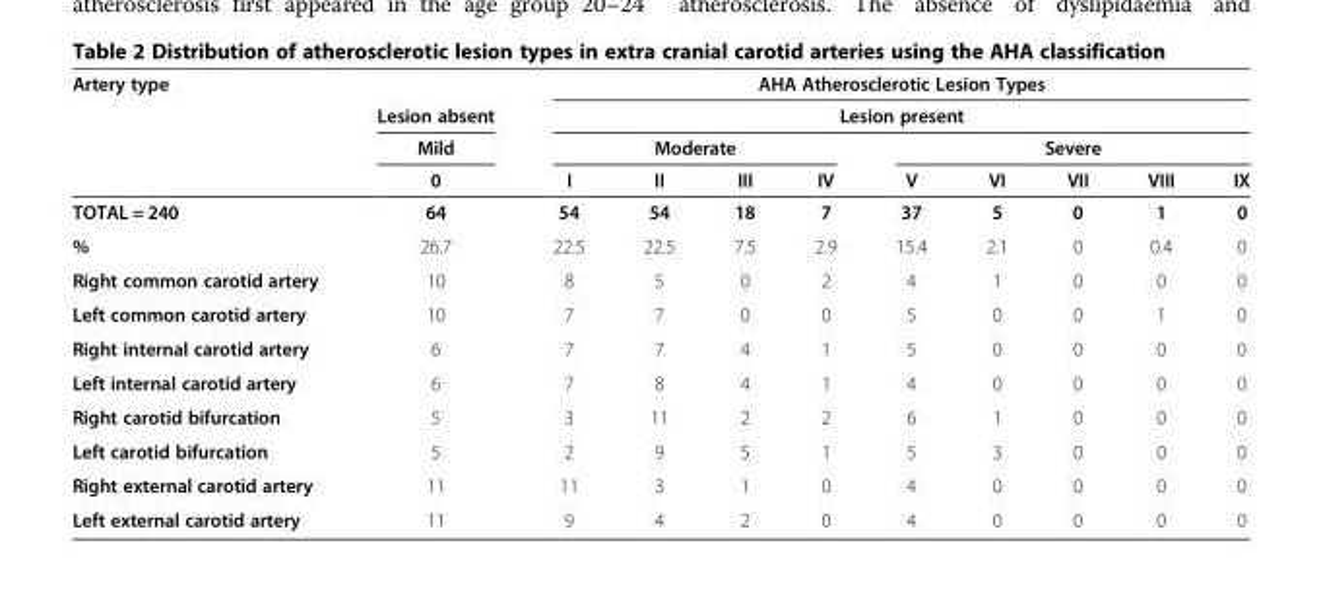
<table><thead><tr><td rowspan="4">Artery type</td><td rowspan="4">Lesion absent Mild 0</td><td rowspan="2" colspan="9">AHA Atherosclerotic Lesion Types Lesion present</td></tr><tr></tr><tr><td colspan="4">Moderate</td><td colspan="5">Severe</td></tr><tr><td>I</td><td>II</td><td>III</td><td>IV</td><td>V</td><td>VI</td><td>VII</td><td>VIII</td><td>IX</td></tr></thead><tbody><tr><td>TOTAL = 240</td><td>64</td><td>54</td><td>54</td><td>18</td><td>7</td><td>37</td><td>5</td><td>0</td><td>1</td><td>0</td></tr><tr><td>%</td><td>26.7</td><td>22.5</td><td>22.5</td><td>7.5</td><td>2.9</td><td>15.4</td><td>2.1</td><td>0</td><td>0.4</td><td>0</td></tr><tr><td>Right common carotid artery</td><td>10</td><td>8</td><td>5</td><td>0</td><td>2</td><td>4</td><td>1</td><td>0</td><td>0</td><td>0</td></tr><tr><td>Left common carotid artery</td><td>10</td><td>7</td><td>7</td><td>0</td><td>0</td><td>5</td><td>0</td><td>0</td><td>1</td><td>0</td></tr><tr><td>Right internal carotid artery</td><td>6</td><td>7</td><td>7</td><td>4</td><td>1</td><td>5</td><td>0</td><td>0</td><td>0</td><td>0</td></tr><tr><td>Left internal carotid artery</td><td>6</td><td>7</td><td>8</td><td>4</td><td>1</td><td>4</td><td>0</td><td>0</td><td>0</td><td>0</td></tr><tr><td>Right carotid bifurcation</td><td>5</td><td>3</td><td>11</td><td>2</td><td>2</td><td>6</td><td>1</td><td>0</td><td>0</td><td>0</td></tr><tr><td>Left carotid bifurcation</td><td>5</td><td>2</td><td>9</td><td>5</td><td>1</td><td>5</td><td>3</td><td>0</td><td>0</td><td>0</td></tr><tr><td>Right external carotid artery</td><td>11</td><td>11</td><td>3</td><td>1</td><td>0</td><td>4</td><td>0</td><td>0</td><td>0</td><td>0</td></tr><tr><td>Left external carotid artery</td><td>11</td><td>9</td><td>4</td><td>2</td><td>0</td><td>4</td><td>0</td><td>0</td><td>0</td><td>0</td></tr></tbody></table>